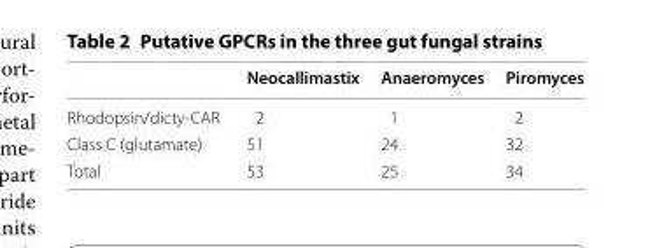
<table><thead><tr><td></td><td>Neocallimastix</td><td>Anaeromyces</td><td>Piromyces</td></tr></thead><tbody><tr><td>Rhodopsin/dicty-CAR</td><td>2</td><td>1</td><td>2</td></tr><tr><td>Class C (glutamate)</td><td>51</td><td>24</td><td>32</td></tr><tr><td>Total</td><td>53</td><td>25</td><td>34</td></tr></tbody></table>